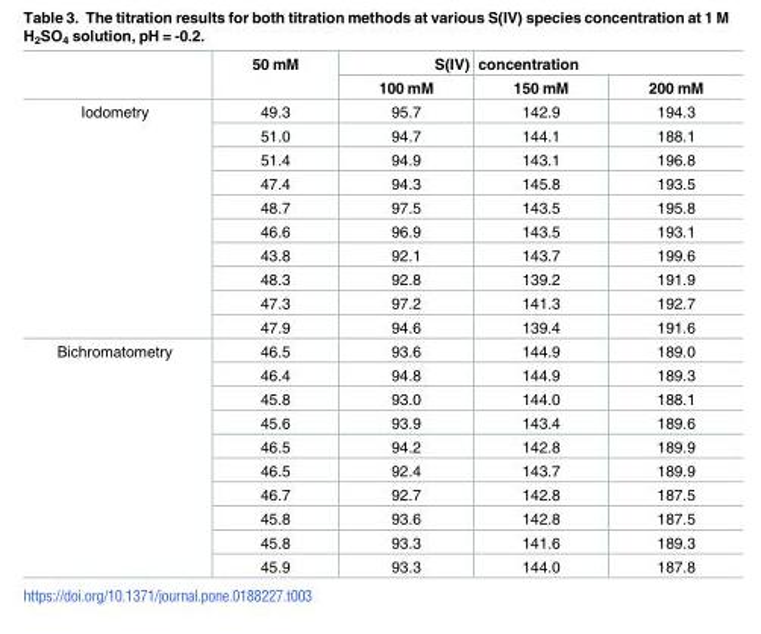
<table><thead><tr><td rowspan="2"></td><td rowspan="2">50 mM</td><td rowspan="2">S(IV) 100 mM</td><td colspan="2">concentration</td></tr><tr><td>150 mM</td><td>200 mM</td></tr></thead><tbody><tr><td rowspan="10">Iodometry</td><td>49.3</td><td>95.7</td><td>142.9</td><td>194.3</td></tr><tr><td>51.0</td><td>94.7</td><td>144.1</td><td>188.1</td></tr><tr><td>51.4</td><td>94.9</td><td>143.1</td><td>196.8</td></tr><tr><td>47.4</td><td>94.3</td><td>145.8</td><td>193.5</td></tr><tr><td>48.7</td><td>97.5</td><td>143.5</td><td>195.8</td></tr><tr><td>46.6</td><td>96.9</td><td>143.5</td><td>193.1</td></tr><tr><td>43.8</td><td>92.1</td><td>143.7</td><td>199.6</td></tr><tr><td>48.3</td><td>92.8</td><td>139.2</td><td>191.9</td></tr><tr><td>47.3</td><td>97.2</td><td>141.3</td><td>192.7</td></tr><tr><td>47.9</td><td>94.6</td><td>139.4</td><td>191.6</td></tr><tr><td rowspan="10">Bichromatometry</td><td>46.5</td><td>93.6</td><td>144.9</td><td>189.0</td></tr><tr><td>46.4</td><td>94.8</td><td>144.9</td><td>189.3</td></tr><tr><td>45.8</td><td>93.0</td><td>144.0</td><td>188.1</td></tr><tr><td>45.6</td><td>93.9</td><td>143.4</td><td>189.6</td></tr><tr><td>46.5</td><td>94.2</td><td>142.8</td><td>189.9</td></tr><tr><td>46.5</td><td>92.4</td><td>143.7</td><td>189.9</td></tr><tr><td>46.7</td><td>92.7</td><td>142.8</td><td>187.5</td></tr><tr><td>45.8</td><td>93.6</td><td>142.8</td><td>187.5</td></tr><tr><td>45.8</td><td>93.3</td><td>141.6</td><td>189.3</td></tr><tr><td>45.9</td><td>93.3</td><td>144.0</td><td>187.8</td></tr></tbody></table>